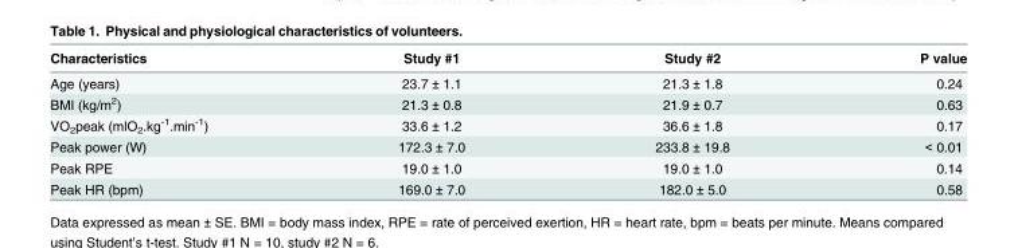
<table><thead><tr><td>Characteristics</td><td>Study #1</td><td>Study #2</td><td>P value</td></tr></thead><tbody><tr><td>Age (years)</td><td>23.7 ± 1.1</td><td>21.3 ± 1.8</td><td>0.24</td></tr><tr><td>BMI (kg/m<sup>2</sup>)</td><td>21.3 ± 0.8</td><td>21.9 ± 0.7</td><td>0.63</td></tr><tr><td>VO<sub>2</sub>peak (mlO<sub>2</sub>.kg<sup>-1</sup>.min<sup>-1</sup>)</td><td>33.6 ± 1.2</td><td>36.6 ± 1.8</td><td>0.17</td></tr><tr><td>Peak power (W)</td><td>172.3 ± 7.0</td><td>233.8 ± 19.8</td><td>&lt; 0.01</td></tr><tr><td>Peak RPE</td><td>19.0 ± 1.0</td><td>19.0 ± 1.0</td><td>0.14</td></tr><tr><td>Peak HR (bpm)</td><td>169.0 ± 7.0</td><td>182.0 ± 5.0</td><td>0.58</td></tr></tbody></table>